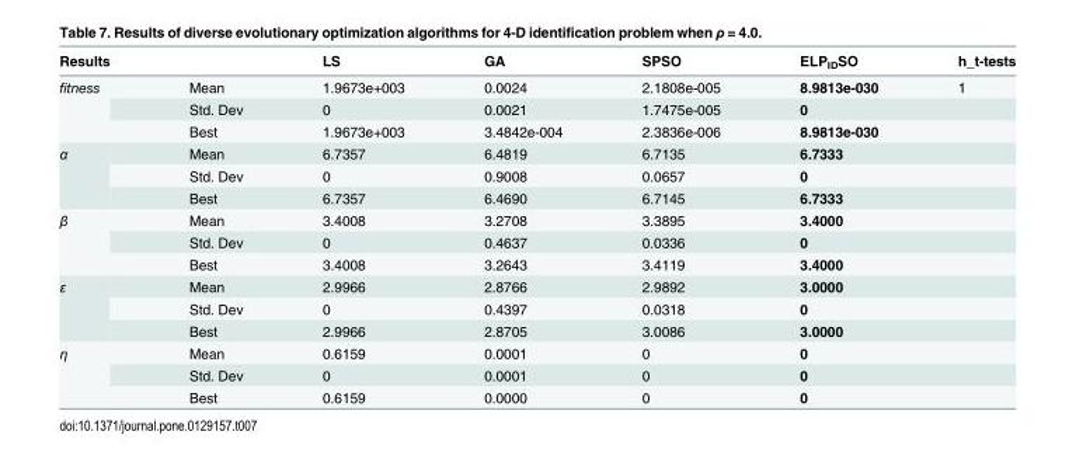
<table><thead><tr><td>Results</td><td></td><td>LS</td><td>GA</td><td>SPSO</td><td>ELP<sub>ID</sub>SO</td><td>h_t-tests</td></tr></thead><tbody><tr><td rowspan="3">fitness</td><td>Mean</td><td>1.9673e+003</td><td>0.0024</td><td>2.1808e-005</td><td>8.9813e-030</td><td>1</td></tr><tr><td>Std. Dev</td><td>0</td><td>0.0021</td><td>1.7475e-005</td><td>0</td><td></td></tr><tr><td>Best</td><td>1.9673e+003</td><td>3.4842e-004</td><td>2.3836e-006</td><td>8.9813e-030</td><td></td></tr><tr><td rowspan="3">α</td><td>Mean</td><td>6.7357</td><td>6.4819</td><td>6.7135</td><td>6.7333</td><td></td></tr><tr><td>Std. Dev</td><td>0</td><td>0.9008</td><td>0.0657</td><td>0</td><td></td></tr><tr><td>Best</td><td>6.7357</td><td>6.4690</td><td>6.7145</td><td>6.7333</td><td></td></tr><tr><td rowspan="3">β</td><td>Mean</td><td>3.4008</td><td>3.2708</td><td>3.3895</td><td>3.4000</td><td></td></tr><tr><td>Std. Dev</td><td>0</td><td>0.4637</td><td>0.0336</td><td>0</td><td></td></tr><tr><td>Best</td><td>3.4008</td><td>3.2643</td><td>3.4119</td><td>3.4000</td><td></td></tr><tr><td rowspan="3">ε</td><td>Mean</td><td>2.9966</td><td>2.8766</td><td>2.9892</td><td>3.0000</td><td></td></tr><tr><td>Std. Dev</td><td>0</td><td>0.4397</td><td>0.0318</td><td>0</td><td></td></tr><tr><td>Best</td><td>2.9966</td><td>2.8705</td><td>3.0086</td><td>3.0000</td><td></td></tr><tr><td rowspan="3">η</td><td>Mean</td><td>0.6159</td><td>0.0001</td><td>0</td><td>0</td><td></td></tr><tr><td>Std. Dev</td><td>0</td><td>0.0001</td><td>0</td><td>0</td><td></td></tr><tr><td>Best</td><td>0.6159</td><td>0.0000</td><td>0</td><td>0</td><td></td></tr></tbody></table>